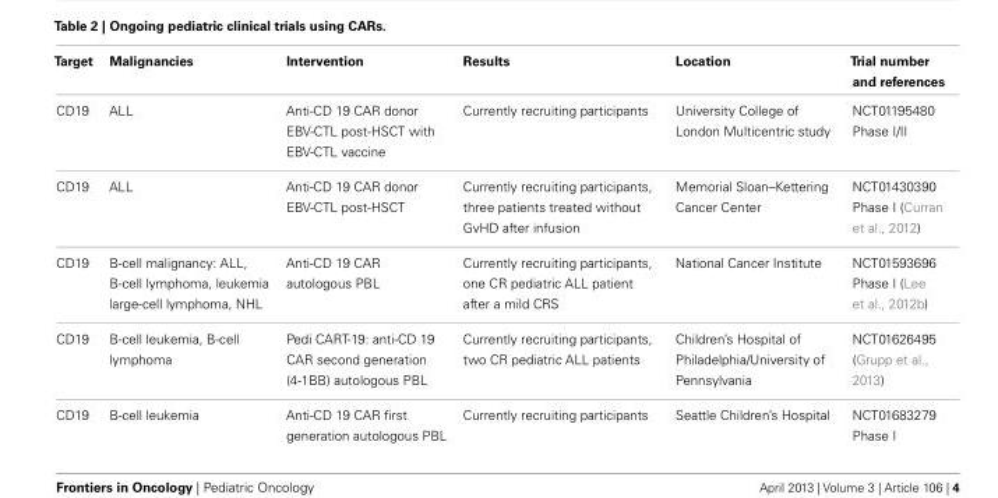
<table><thead><tr><td>Target</td><td>Malignancies</td><td>Intervention</td><td>Results</td><td>Location</td><td>Trial number and references</td></tr></thead><tbody><tr><td>CD19</td><td>ALL</td><td>Anti-CD 19 CAR donor EBV-CTL post-HSCT with EBV-CTL vaccine</td><td>Currently recruiting participants</td><td>University College of London Multicentric study</td><td>NCT01195480 Phase I/II</td></tr><tr><td>CD19</td><td>ALL</td><td>Anti-CD 19 CAR donor EBV-CTL post-HSCT</td><td>Currently recruiting participants, three patients treated without GvHD after infusion</td><td>Memorial Sloan–Kettering Cancer Center</td><td>NCT01430390 Phase I (Curran et al., 2012)</td></tr><tr><td>CD19</td><td>B-cell malignancy: ALL, B-cell lymphoma, leukemia large-cell lymphoma, NHL</td><td>Anti-CD 19 CAR autologous PBL</td><td>Currently recruiting participants, one CR pediatric ALL patient after a mild CRS</td><td>National Cancer Institute</td><td>NCT01593696 Phase I (Lee et al., 2012b)</td></tr><tr><td>CD19</td><td>B-cell leukemia, B-cell lymphoma</td><td>Pedi CART-19: anti-CD 19 CAR second generation (4-1BB) autologous PBL</td><td>Currently recruiting participants, two CR pediatric ALL patients</td><td>Children’s Hospital of Philadelphia/University of Pennsylvania</td><td>NCT01626495 (Grupp et al., 2013)</td></tr><tr><td>CD19</td><td>B-cell leukemia</td><td>Anti-CD 19 CAR first generation autologous PBL</td><td>Currently recruiting participants</td><td>Seattle Children’s Hospital</td><td>NCT01683279 Phase I</td></tr></tbody></table>